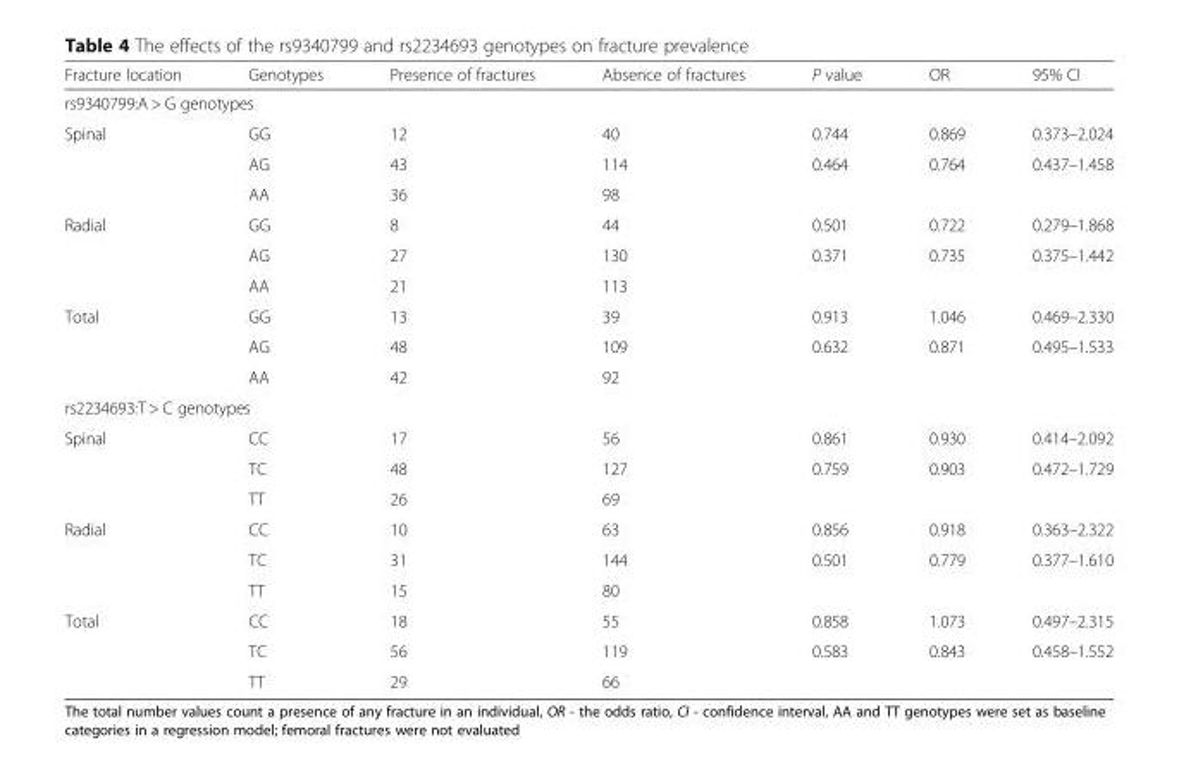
<table><thead><tr><td>Fracture location</td><td>Genotypes</td><td>Presence of fractures</td><td>Absence of fractures</td><td>P value</td><td>OR</td><td>95% CI</td></tr></thead><tbody><tr><td colspan="7">rs9340799:A &gt; G genotypes</td></tr><tr><td rowspan="3">Spinal</td><td>GG</td><td>12</td><td>40</td><td>0.744</td><td>0.869</td><td>0.373–2.024</td></tr><tr><td>AG</td><td>43</td><td>114</td><td>0.464</td><td>0.764</td><td>0.437–1.458</td></tr><tr><td>AA</td><td>36</td><td>98</td><td></td><td></td><td></td></tr><tr><td rowspan="3">Radial</td><td>GG</td><td>8</td><td>44</td><td>0.501</td><td>0.722</td><td>0.279–1.868</td></tr><tr><td>AG</td><td>27</td><td>130</td><td>0.371</td><td>0.735</td><td>0.375–1.442</td></tr><tr><td>AA</td><td>21</td><td>113</td><td></td><td></td><td></td></tr><tr><td rowspan="3">Total</td><td>GG</td><td>13</td><td>39</td><td>0.913</td><td>1.046</td><td>0.469–2.330</td></tr><tr><td>AG</td><td>48</td><td>109</td><td>0.632</td><td>0.871</td><td>0.495–1.533</td></tr><tr><td>AA</td><td>42</td><td>92</td><td></td><td></td><td></td></tr><tr><td colspan="7">rs2234693:T &gt; C genotypes</td></tr><tr><td rowspan="3">Spinal</td><td>CC</td><td>17</td><td>56</td><td>0.861</td><td>0.930</td><td>0.414–2.092</td></tr><tr><td>TC</td><td>48</td><td>127</td><td>0.759</td><td>0.903</td><td>0.472–1.729</td></tr><tr><td>TT</td><td>26</td><td>69</td><td></td><td></td><td></td></tr><tr><td rowspan="3">Radial</td><td>CC</td><td>10</td><td>63</td><td>0.856</td><td>0.918</td><td>0.363–2.322</td></tr><tr><td>TC</td><td>31</td><td>144</td><td>0.501</td><td>0.779</td><td>0.377–1.610</td></tr><tr><td>TT</td><td>15</td><td>80</td><td></td><td></td><td></td></tr><tr><td rowspan="3">Total</td><td>CC</td><td>18</td><td>55</td><td>0.858</td><td>1.073</td><td>0.497–2.315</td></tr><tr><td>TC</td><td>56</td><td>119</td><td>0.583</td><td>0.843</td><td>0.458–1.552</td></tr><tr><td>TT</td><td>29</td><td>66</td><td></td><td></td><td></td></tr></tbody></table>